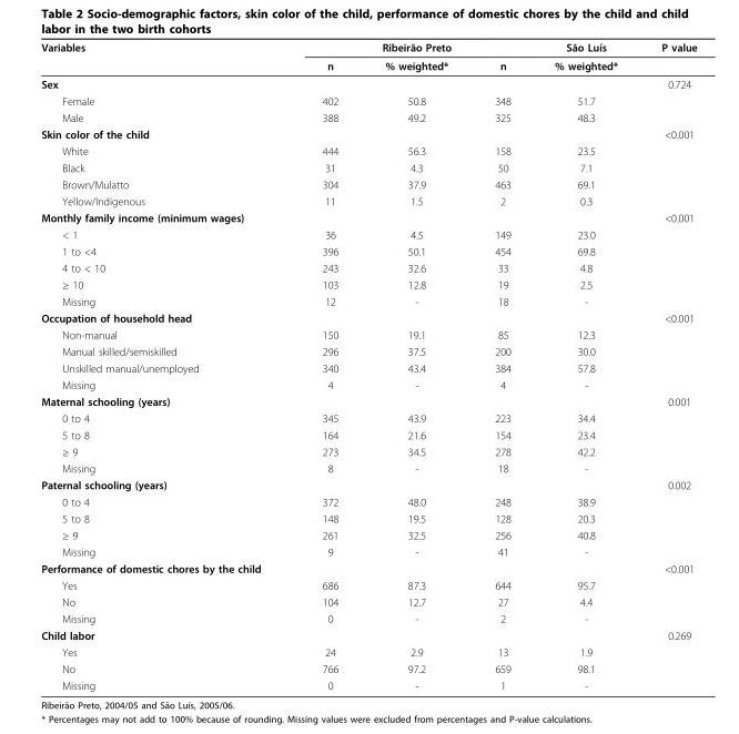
<table><thead><tr><td rowspan="2">Variables</td><td rowspan="2">n</td><td rowspan="2">Ribeirão Preto % weighted*</td><td rowspan="2">n</td><td rowspan="2">São Luís % weighted*</td><td rowspan="2">P value</td></tr><tr></tr></thead><tbody><tr><td>Sex</td><td></td><td></td><td></td><td></td><td>0.724</td></tr><tr><td>Female</td><td>402</td><td>50.8</td><td>348</td><td>51.7</td><td></td></tr><tr><td>Male</td><td>388</td><td>49.2</td><td>325</td><td>48.3</td><td></td></tr><tr><td>Skin color of the child</td><td></td><td></td><td></td><td></td><td>&lt;0.001</td></tr><tr><td>White</td><td>444</td><td>56.3</td><td>158</td><td>23.5</td><td></td></tr><tr><td>Black</td><td>31</td><td>4.3</td><td>50</td><td>7.1</td><td></td></tr><tr><td>Brown/Mulatto</td><td>304</td><td>37.9</td><td>463</td><td>69.1</td><td></td></tr><tr><td>Yellow/Indigenous</td><td>11</td><td>1.5</td><td>2</td><td>0.3</td><td></td></tr><tr><td>Monthly family income (minimum wages)</td><td></td><td></td><td></td><td></td><td>&lt;0.001</td></tr><tr><td>&lt; 1</td><td>36</td><td>4.5</td><td>149</td><td>23.0</td><td></td></tr><tr><td>1 to &lt;4</td><td>396</td><td>50.1</td><td>454</td><td>69.8</td><td></td></tr><tr><td>4 to &lt; 10</td><td>243</td><td>32.6</td><td>33</td><td>4.8</td><td></td></tr><tr><td>≥ 10</td><td>103</td><td>12.8</td><td>19</td><td>2.5</td><td></td></tr><tr><td>Missing</td><td>12</td><td>-</td><td>18</td><td>-</td><td></td></tr><tr><td>Occupation of household head</td><td></td><td></td><td></td><td></td><td>&lt;0.001</td></tr><tr><td>Non-manual</td><td>150</td><td>19.1</td><td>85</td><td>12.3</td><td></td></tr><tr><td>Manual skilled/semiskilled</td><td>296</td><td>37.5</td><td>200</td><td>30.0</td><td></td></tr><tr><td>Unskilled manual/unemployed</td><td>340</td><td>43.4</td><td>384</td><td>57.8</td><td></td></tr><tr><td>Missing</td><td>4</td><td>-</td><td>4</td><td>-</td><td></td></tr><tr><td>Maternal schooling (years)</td><td></td><td></td><td></td><td></td><td>0.001</td></tr><tr><td>0 to 4</td><td>345</td><td>43.9</td><td>223</td><td>34.4</td><td></td></tr><tr><td>5 to 8</td><td>164</td><td>21.6</td><td>154</td><td>23.4</td><td></td></tr><tr><td>≥ 9</td><td>273</td><td>34.5</td><td>278</td><td>42.2</td><td></td></tr><tr><td>Missing</td><td>8</td><td>-</td><td>18</td><td>-</td><td></td></tr><tr><td>Paternal schooling (years)</td><td></td><td></td><td></td><td></td><td>0.002</td></tr><tr><td>0 to 4</td><td>372</td><td>48.0</td><td>248</td><td>38.9</td><td></td></tr><tr><td>5 to 8</td><td>148</td><td>19.5</td><td>128</td><td>20.3</td><td></td></tr><tr><td>≥ 9</td><td>261</td><td>32.5</td><td>256</td><td>40.8</td><td></td></tr><tr><td>Missing</td><td>9</td><td>-</td><td>41</td><td>-</td><td></td></tr><tr><td>Performance of domestic chores by the child</td><td></td><td></td><td></td><td></td><td>&lt;0.001</td></tr><tr><td>Yes</td><td>686</td><td>87.3</td><td>644</td><td>95.7</td><td></td></tr><tr><td>No</td><td>104</td><td>12.7</td><td>27</td><td>4.4</td><td></td></tr><tr><td>Missing</td><td>0</td><td>-</td><td>2</td><td>-</td><td></td></tr><tr><td>Child labor</td><td></td><td></td><td></td><td></td><td>0.269</td></tr><tr><td>Yes</td><td>24</td><td>2.9</td><td>13</td><td>1.9</td><td></td></tr><tr><td>No</td><td>766</td><td>97.2</td><td>659</td><td>98.1</td><td></td></tr><tr><td>Missing</td><td>0</td><td>-</td><td>1</td><td>-</td><td></td></tr></tbody></table>